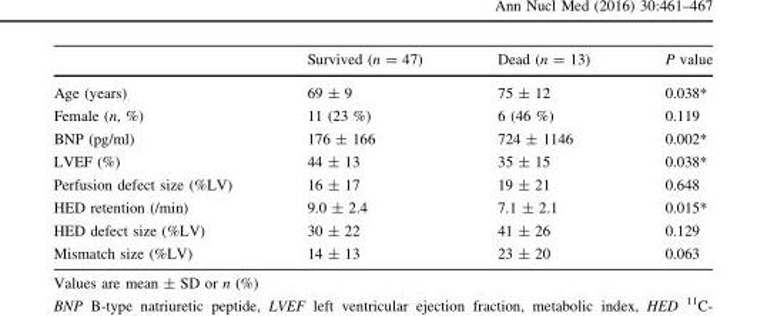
<table><thead><tr><td></td><td>Survived (n = 47)</td><td>Dead (n = 13)</td><td>P value</td></tr></thead><tbody><tr><td>Age (years)</td><td>69 ± 9</td><td>75 ± 12</td><td>0.038*</td></tr><tr><td>Female (n, %)</td><td>11 (23 %)</td><td>6 (46 %)</td><td>0.119</td></tr><tr><td>BNP (pg/ml)</td><td>176 ± 166</td><td>724 ± 1146</td><td>0.002*</td></tr><tr><td>LVEF (%)</td><td>44 ± 13</td><td>35 ± 15</td><td>0.038*</td></tr><tr><td>Perfusion defect size (%LV)</td><td>16 ± 17</td><td>19 ± 21</td><td>0.648</td></tr><tr><td>HED retention (/min)</td><td>9.0 ± 2.4</td><td>7.1 ± 2.1</td><td>0.015*</td></tr><tr><td>HED defect size (%LV)</td><td>30 ± 22</td><td>41 ± 26</td><td>0.129</td></tr><tr><td>Mismatch size (%LV)</td><td>14 ± 13</td><td>23 ± 20</td><td>0.063</td></tr></tbody></table>